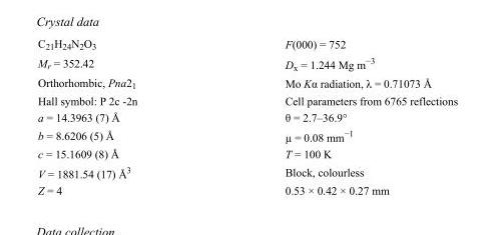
<table><tbody><tr><td>C<sub>21</sub>H<sub>24</sub>N<sub>2</sub>O<sub>3</sub></td><td>F(000) = 752</td></tr><tr><td>M<sub>r</sub> = 352.42</td><td>D<sub>x</sub> = 1.244 Mg m<sup>−3</sup></td></tr><tr><td>Orthorhombic, Pna2<sub>1</sub></td><td>Mo Kα radiation, λ = 0.71073 Å</td></tr><tr><td>Hall symbol: P 2c -2n</td><td>Cell parameters from 6765 reflections</td></tr><tr><td>a = 14.3963 (7) Å</td><td>θ = 2.7–36.9°</td></tr><tr><td>b = 8.6206 (5) Å</td><td>µ = 0.08 mm<sup>−1</sup></td></tr><tr><td>c = 15.1609 (8) Å</td><td>T = 100 K</td></tr><tr><td>V = 1881.54 (17) Å<sup>3</sup></td><td>Block, colourless</td></tr><tr><td>Z = 4</td><td>0.53 × 0.42 × 0.27 mm</td></tr></tbody></table>